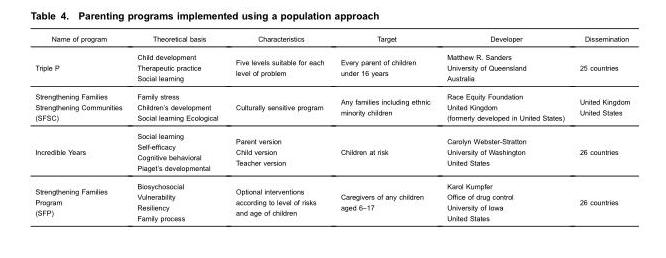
<table><thead><tr><td>Name of program</td><td>Theoretical basis</td><td>Characteristics</td><td>Target</td><td>Developer</td><td>Dissemination</td></tr></thead><tbody><tr><td>Triple P</td><td>Child development Therapeutic practice Social learning</td><td>Five levels suitable for each level of problem</td><td>Every parent of children under 16 years</td><td>Matthew R. Sanders University of Queensland Australia</td><td>25 countries</td></tr><tr><td>Strengthening Families Strengthening Communities (SFSC)</td><td>Family stress Children’s development Social learning Ecological</td><td>Culturally sensitive program</td><td>Any families including ethnic minority children</td><td>Race Equity Foundation United Kingdom (formerly developed in United States)</td><td>United Kingdom United States</td></tr><tr><td>Incredible Years</td><td>Social learning Self-efficacy Cognitive behavioral Piaget’s developmental</td><td>Parent version Child version Teacher version</td><td>Children at risk</td><td>Carolyn Webster-Stratton University of Washington United States</td><td>26 countries</td></tr><tr><td>Strengthening Families Program (SFP)</td><td>Biosychosocial Vulnerability Resiliency Family process</td><td>Optional interventions according to level of risks and age of children</td><td>Caregivers of any children aged 6–17</td><td>Karol Kumpfer Office of drug control University of Iowa United States</td><td>26 countries</td></tr></tbody></table>